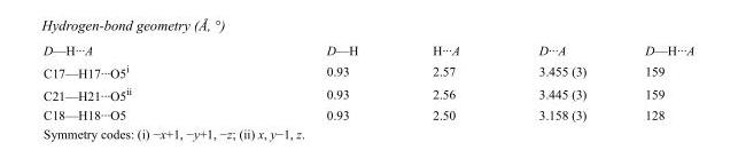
<table><tbody><tr><td>D—H···A</td><td>D—H</td><td>H···A</td><td>D···A</td><td>D—H···A</td></tr><tr><td>C17—H17···O5<sup>i</sup></td><td>0.93</td><td>2.57</td><td>3.455 (3)</td><td>159</td></tr><tr><td>C21—H21···O5<sup>ii</sup></td><td>0.93</td><td>2.56</td><td>3.445 (3)</td><td>159</td></tr><tr><td>C18—H18···O5</td><td>0.93</td><td>2.50</td><td>3.158 (3)</td><td>128</td></tr></tbody></table>